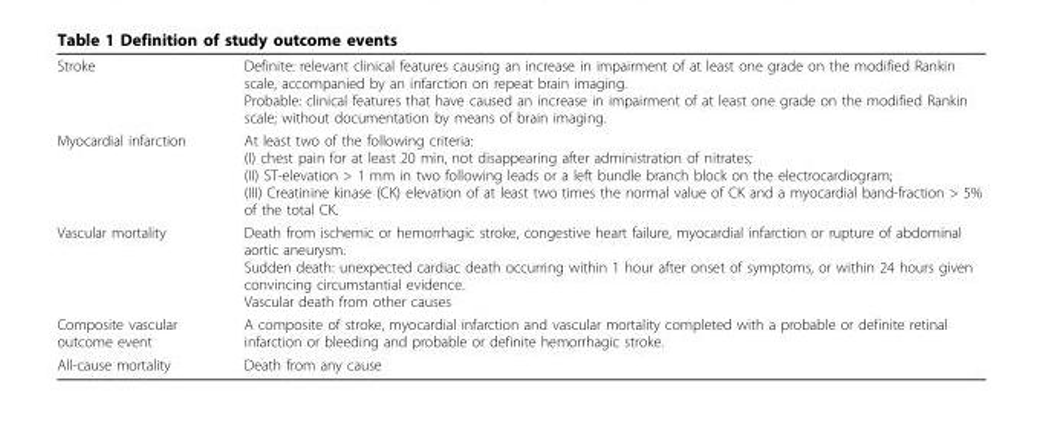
<table><tbody><tr><td>Stroke</td><td>Definite: relevant clinical features causing an increase in impairment of at least one grade on the modified Rankin scale, accompanied by an infarction on repeat brain imaging. Probable: clinical features that have caused an increase in impairment of at least one grade on the modified Rankin scale; without documentation by means of brain imaging.</td></tr><tr><td>Myocardial infarction</td><td>At least two of the following criteria: (I) chest pain for at least 20 min, not disappearing after administration of nitrates; (II) ST-elevation &gt; 1 mm in two following leads or a left bundle branch block on the electrocardiogram; (III) Creatinine kinase (CK) elevation of at least two times the normal value of CK and a myocardial band-fraction &gt; 5% of the total CK.</td></tr><tr><td>Vascular mortality</td><td>Death from ischemic or hemorrhagic stroke, congestive heart failure, myocardial infarction or rupture of abdominal aortic aneurysm. Sudden death: unexpected cardiac death occurring within 1 hour after onset of symptoms, or within 24 hours given convincing circumstantial evidence. Vascular death from other causes</td></tr><tr><td>Composite vascular outcome event</td><td>A composite of stroke, myocardial infarction and vascular mortality completed with a probable or definite retinal infarction or bleeding and probable or definite hemorrhagic stroke.</td></tr><tr><td>All-cause mortality</td><td>Death from any cause</td></tr></tbody></table>